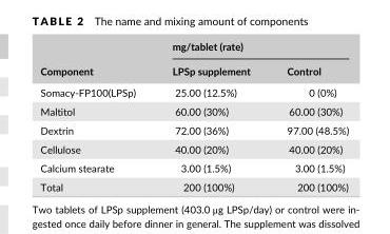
<table><thead><tr><td rowspan="2">Component</td><td colspan="2">mg/tablet (rate)</td></tr><tr><td>LPSp supplement</td><td>Control</td></tr></thead><tbody><tr><td>Somacy- FP100(LPSp)</td><td>25.00 (12.5%)</td><td>0 (0%)</td></tr><tr><td>Maltitol</td><td>60.00 (30%)</td><td>60.00 (30%)</td></tr><tr><td>Dextrin</td><td>72.00 (36%)</td><td>97.00 (48.5%)</td></tr><tr><td>Cellulose</td><td>40.00 (20%)</td><td>40.00 (20%)</td></tr><tr><td>Calcium stearate</td><td>3.00 (1.5%)</td><td>3.00 (1.5%)</td></tr><tr><td>Total</td><td>200 (100%)</td><td>200 (100%)</td></tr></tbody></table>